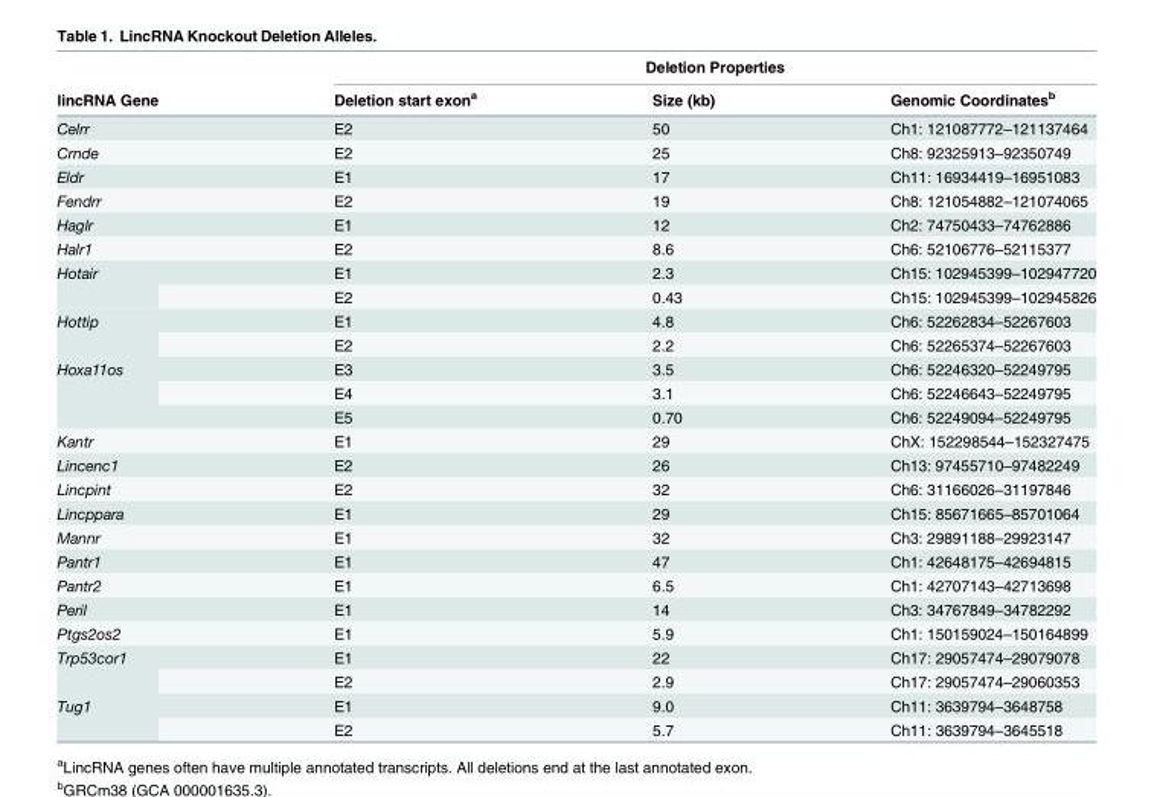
<table><thead><tr><td rowspan="2">lincRNA Gene</td><td colspan="3">Deletion Properties</td></tr><tr><td>Deletion start exon<sup>a</sup></td><td>Size (kb)</td><td>Genomic Coordinates<sup>b</sup></td></tr></thead><tbody><tr><td>Celrr</td><td>E2</td><td>50</td><td>Ch1: 121087772–121137464</td></tr><tr><td>Crnde</td><td>E2</td><td>25</td><td>Ch8: 92325913–92350749</td></tr><tr><td>Eldr</td><td>E1</td><td>17</td><td>Ch11: 16934419–16951083</td></tr><tr><td>Fendrr</td><td>E2</td><td>19</td><td>Ch8: 121054882–121074065</td></tr><tr><td>Haglr</td><td>E1</td><td>12</td><td>Ch2: 74750433–74762886</td></tr><tr><td>Halr1</td><td>E2</td><td>8.6</td><td>Ch6: 52106776–52115377</td></tr><tr><td rowspan="2">Hotair</td><td>E1</td><td>2.3</td><td>Ch15: 102945399–102947720</td></tr><tr><td>E2</td><td>0.43</td><td>Ch15: 102945399–102945826</td></tr><tr><td rowspan="2">Hottip</td><td>E1</td><td>4.8</td><td>Ch6: 52262834–52267603</td></tr><tr><td>E2</td><td>2.2</td><td>Ch6: 52265374–52267603</td></tr><tr><td rowspan="3">Hoxa11os</td><td>E3</td><td>3.5</td><td>Ch6: 52246320–52249795</td></tr><tr><td>E4</td><td>3.1</td><td>Ch6: 52246643–52249795</td></tr><tr><td>E5</td><td>0.70</td><td>Ch6: 52249094–52249795</td></tr><tr><td>Kantr</td><td>E1</td><td>29</td><td>ChX: 152298544–152327475</td></tr><tr><td>Lincenc1</td><td>E2</td><td>26</td><td>Ch13: 97455710–97482249</td></tr><tr><td>Lincpint</td><td>E2</td><td>32</td><td>Ch6: 31166026–31197846</td></tr><tr><td>Lincppara</td><td>E1</td><td>29</td><td>Ch15: 85671665–85701064</td></tr><tr><td>Mannr</td><td>E1</td><td>32</td><td>Ch3: 29891188–29923147</td></tr><tr><td>Pantr1</td><td>E1</td><td>47</td><td>Ch1: 42648175–42694815</td></tr><tr><td>Pantr2</td><td>E1</td><td>6.5</td><td>Ch1: 42707143–42713698</td></tr><tr><td>Peril</td><td>E1</td><td>14</td><td>Ch3: 34767849–34782292</td></tr><tr><td>Ptgs2os2</td><td>E1</td><td>5.9</td><td>Ch1: 150159024–150164899</td></tr><tr><td rowspan="2">Trp53cor1</td><td>E1</td><td>22</td><td>Ch17: 29057474–29079078</td></tr><tr><td>E2</td><td>2.9</td><td>Ch17: 29057474–29060353</td></tr><tr><td rowspan="2">Tug1</td><td>E1</td><td>9.0</td><td>Ch11: 3639794–3648758</td></tr><tr><td>E2</td><td>5.7</td><td>Ch11: 3639794–3645518</td></tr></tbody></table>